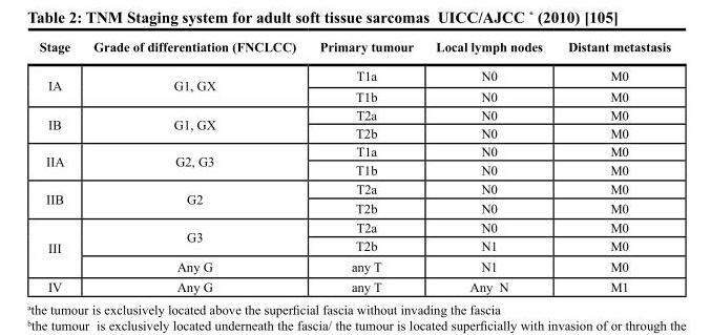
<table><thead><tr><td>Stage</td><td>Grade of differentiation (FNCLCC)</td><td>Primary tumour</td><td>Local lymph nodes</td><td>Distant metastasis</td></tr></thead><tbody><tr><td rowspan="2">IA</td><td rowspan="2">G1, GX</td><td>T1a</td><td>N0</td><td>M0</td></tr><tr><td>T1b</td><td>N0</td><td>M0</td></tr><tr><td rowspan="2">IB</td><td rowspan="2">G1, GX</td><td>T2a</td><td>N0</td><td>M0</td></tr><tr><td>T2b</td><td>N0</td><td>M0</td></tr><tr><td rowspan="2">IIA</td><td rowspan="2">G2, G3</td><td>T1a</td><td>N0</td><td>M0</td></tr><tr><td>T1b</td><td>N0</td><td>M0</td></tr><tr><td rowspan="2">IIB</td><td rowspan="2">G2</td><td>T2a</td><td>N0</td><td>M0</td></tr><tr><td>T2b</td><td>N0</td><td>M0</td></tr><tr><td rowspan="3">III</td><td rowspan="2">G3</td><td>T2a</td><td>N0</td><td>M0</td></tr><tr><td>T2b</td><td>N1</td><td>M0</td></tr><tr><td>Any G</td><td>any T</td><td>N1</td><td>M0</td></tr><tr><td>IV</td><td>Any G</td><td>any T</td><td>Any N</td><td>M1</td></tr></tbody></table>